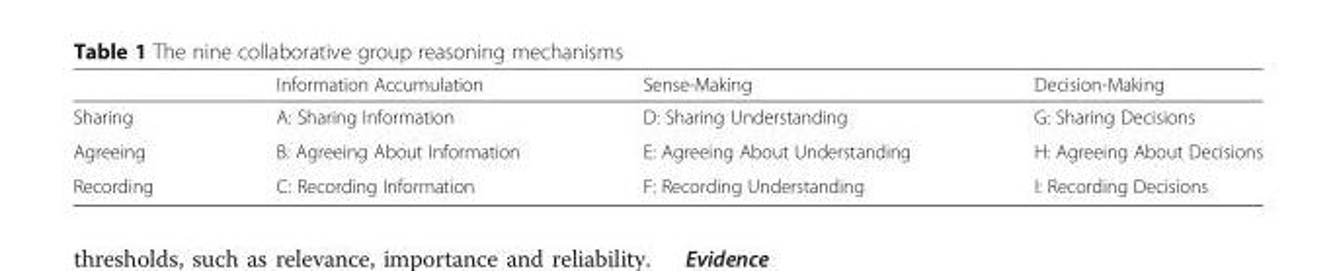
<table><thead><tr><td></td><td>Information Accumulation</td><td>Sense-Making</td><td>Decision-Making</td></tr></thead><tbody><tr><td>Sharing</td><td>A: Sharing Information</td><td>D: Sharing Understanding</td><td>G: Sharing Decisions</td></tr><tr><td>Agreeing</td><td>B: Agreeing About Information</td><td>E: Agreeing About Understanding</td><td>H: Agreeing About Decisions</td></tr><tr><td>Recording</td><td>C: Recording Information</td><td>F: Recording Understanding</td><td>I: Recording Decisions</td></tr></tbody></table>